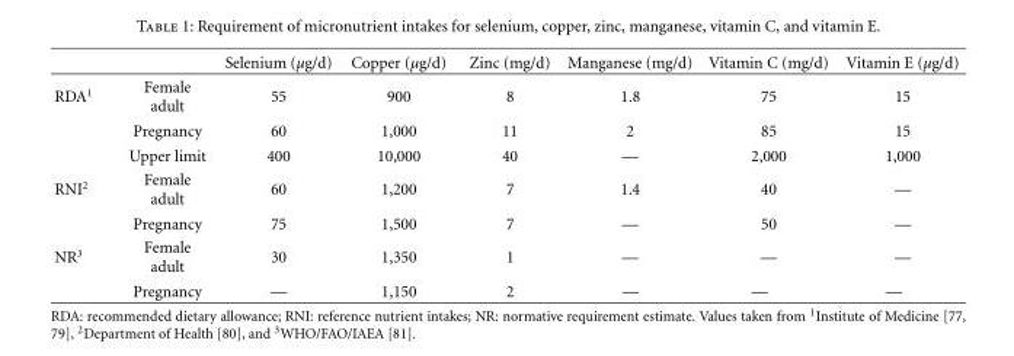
<table><thead><tr><td></td><td></td><td>Selenium (μg/d)</td><td>Copper (μg/d)</td><td>Zinc (mg/d)</td><td>Manganese (mg/d)</td><td>Vitamin C (mg/d)</td><td>Vitamin E (μg/d)</td></tr></thead><tbody><tr><td rowspan="3">RDA<sup>1</sup></td><td>Female adult</td><td>55</td><td>900</td><td>8</td><td>1.8</td><td>75</td><td>15</td></tr><tr><td>Pregnancy</td><td>60</td><td>1,000</td><td>11</td><td>2</td><td>85</td><td>15</td></tr><tr><td>Upper limit</td><td>400</td><td>10,000</td><td>40</td><td>—</td><td>2,000</td><td>1,000</td></tr><tr><td rowspan="2">RNI<sup>2</sup></td><td>Female adult</td><td>60</td><td>1,200</td><td>7</td><td>1.4</td><td>40</td><td>—</td></tr><tr><td>Pregnancy</td><td>75</td><td>1,500</td><td>7</td><td>—</td><td>50</td><td>—</td></tr><tr><td rowspan="2">NR<sup>3</sup></td><td>Female adult</td><td>30</td><td>1,350</td><td>1</td><td>—</td><td>—</td><td>—</td></tr><tr><td>Pregnancy</td><td>—</td><td>1,150</td><td>2</td><td>—</td><td>—</td><td>—</td></tr></tbody></table>